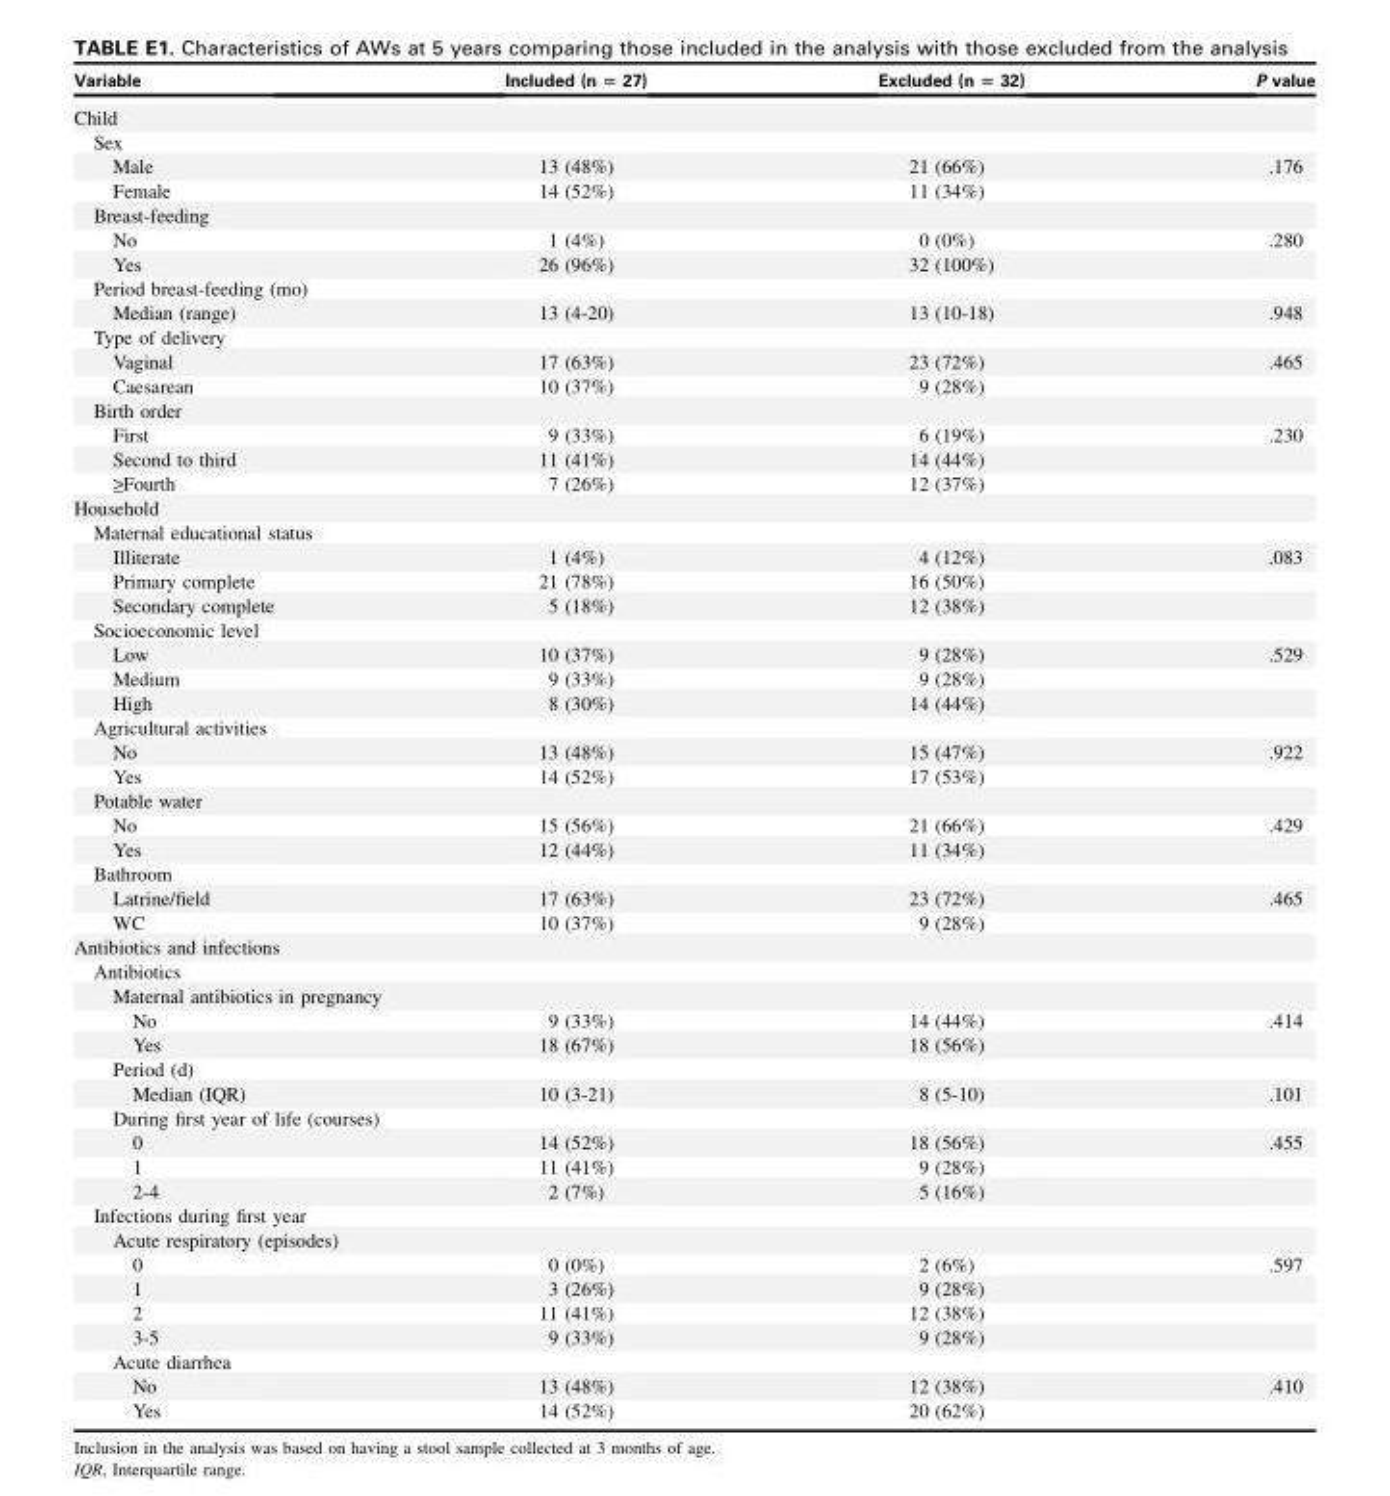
<table><thead><tr><td>Variable</td><td>Included (n = 27)</td><td>Excluded (n = 32)</td><td>P value</td></tr></thead><tbody><tr><td colspan="4">Child</td></tr><tr><td colspan="4">Sex</td></tr><tr><td>Male</td><td>13 (48%)</td><td>21 (66%)</td><td>.176</td></tr><tr><td>Female</td><td>14 (52%)</td><td>11 (34%)</td><td></td></tr><tr><td colspan="4">Breast-feeding</td></tr><tr><td>No</td><td>1 (4%)</td><td>0 (0%)</td><td>.280</td></tr><tr><td>Yes</td><td>26 (96%)</td><td>32 (100%)</td><td></td></tr><tr><td colspan="4">Period breast-feeding (mo)</td></tr><tr><td>Median (range)</td><td>13 (4-20)</td><td>13 (10-18)</td><td>.948</td></tr><tr><td colspan="4">Type of delivery</td></tr><tr><td>Vaginal</td><td>17 (63%)</td><td>23 (72%)</td><td>.465</td></tr><tr><td>Caesarean</td><td>10 (37%)</td><td>9 (28%)</td><td></td></tr><tr><td colspan="4">Birth order</td></tr><tr><td>First</td><td>9 (33%)</td><td>6 (19%)</td><td>.230</td></tr><tr><td>Second to third</td><td>11 (41%)</td><td>14 (44%)</td><td></td></tr><tr><td>&gt;_Fourth</td><td>7 (26%)</td><td>12 (37%)</td><td></td></tr><tr><td colspan="4">Household</td></tr><tr><td colspan="4">Maternal educational status</td></tr><tr><td>Illiterate</td><td>1 (4%)</td><td>4 (12%)</td><td>.083</td></tr><tr><td>Primary complete</td><td>21 (78%)</td><td>16 (50%)</td><td></td></tr><tr><td>Secondary complete</td><td>5 (18%)</td><td>12 (38%)</td><td></td></tr><tr><td colspan="4">Socioeconomic level</td></tr><tr><td>Low</td><td>10 (37%)</td><td>9 (28%)</td><td>.529</td></tr><tr><td>Medium</td><td>9 (33%)</td><td>9 (28%)</td><td></td></tr><tr><td>High</td><td>8 (30%)</td><td>14 (44%)</td><td></td></tr><tr><td colspan="4">Agricultural activities</td></tr><tr><td>No</td><td>13 (48%)</td><td>15 (47%)</td><td>.922</td></tr><tr><td>Yes</td><td>14 (52%)</td><td>17 (53%)</td><td></td></tr><tr><td colspan="4">Potable water</td></tr><tr><td>No</td><td>15 (56%)</td><td>21 (66%)</td><td>.429</td></tr><tr><td>Yes</td><td>12 (44%)</td><td>11 (34%)</td><td></td></tr><tr><td colspan="4">Bathroom</td></tr><tr><td>Latrine/field</td><td>17 (63%)</td><td>23 (72%)</td><td>.465</td></tr><tr><td>WC</td><td>10 (37%)</td><td>9 (28%)</td><td></td></tr><tr><td colspan="4">Antibiotics and infections</td></tr><tr><td colspan="4">Antibiotics</td></tr><tr><td colspan="4">Maternal antibiotics in pregnancy</td></tr><tr><td>No</td><td>9 (33%)</td><td>14 (44%)</td><td>.414</td></tr><tr><td>Yes</td><td>18 (67%)</td><td>18 (56%)</td><td></td></tr><tr><td colspan="4">Period (d)</td></tr><tr><td>Median (IQR)</td><td>10 (3-21)</td><td>8 (5-10)</td><td>.101</td></tr><tr><td colspan="4">During first year of life (courses)</td></tr><tr><td>0</td><td>14 (52%)</td><td>18 (56%)</td><td>.455</td></tr><tr><td>1</td><td>11 (41%)</td><td>9 (28%)</td><td></td></tr><tr><td>2-4</td><td>2 (7%)</td><td>5 (16%)</td><td></td></tr><tr><td colspan="4">Infections during first year</td></tr><tr><td colspan="4">Acute respiratory (episodes)</td></tr><tr><td>0</td><td>0 (0%)</td><td>2 (6%)</td><td>.597</td></tr><tr><td>1</td><td>3 (26%)</td><td>9 (28%)</td><td></td></tr><tr><td>2</td><td>11 (41%)</td><td>12 (38%)</td><td></td></tr><tr><td>3-5</td><td>9 (33%)</td><td>9 (28%)</td><td></td></tr><tr><td colspan="4">Acute diarrhea</td></tr><tr><td>No</td><td>13 (48%)</td><td>12 (38%)</td><td>.410</td></tr><tr><td>Yes</td><td>14 (52%)</td><td>20 (62%)</td><td></td></tr></tbody></table>